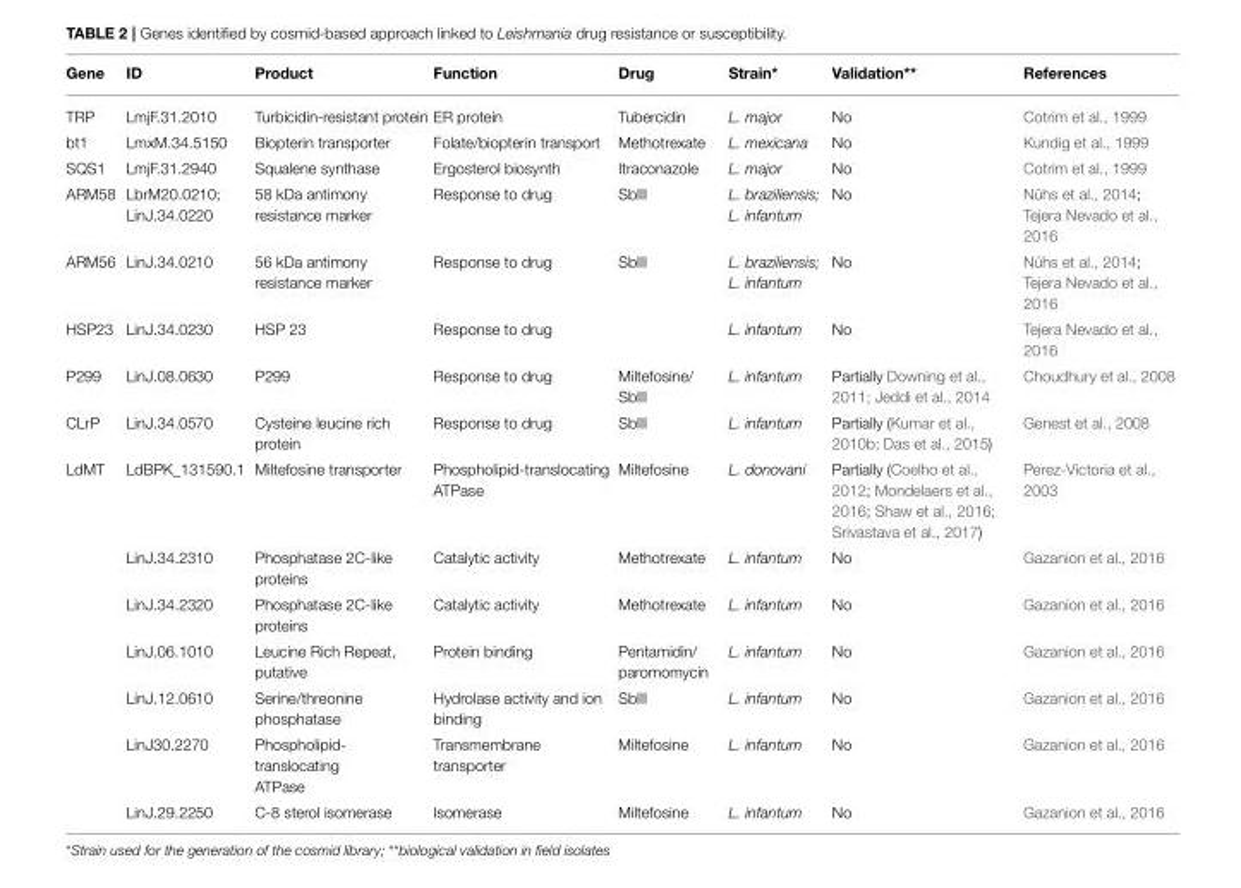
<table><thead><tr><td>Gene</td><td>ID</td><td>Product</td><td>Function</td><td>Drug</td><td>Strain*</td><td>Validation**</td><td>References</td></tr></thead><tbody><tr><td>TRP</td><td>LmjF.31.2010</td><td>Turbicidin-resistant protein</td><td>ER protein</td><td>Tubercidin</td><td>L. major</td><td>No</td><td>Cotrim et al., 1999</td></tr><tr><td>bt1</td><td>LmxM.34.5150</td><td>Biopterin transporter</td><td>Folate/biopterin transport</td><td>Methotrexate</td><td>L. mexicana</td><td>No</td><td>Kundig et al., 1999</td></tr><tr><td>SQS1</td><td>LmjF.31.2940</td><td>Squalene synthase</td><td>Ergosterol biosynth</td><td>Itraconazole</td><td>L. major</td><td>No</td><td>Cotrim et al., 1999</td></tr><tr><td>ARM58</td><td>LbrM20.0210; LinJ.34.0220</td><td>58 kDa antimony resistance marker</td><td>Response to drug</td><td>SbIII</td><td>L. braziliensis; L. infantum</td><td>No</td><td>Nühs et al., 2014; Tejera Nevado et al., 2016</td></tr><tr><td>ARM56</td><td>LinJ.34.0210</td><td>56 kDa antimony resistance marker</td><td>Response to drug</td><td>SbIII</td><td>L. braziliensis; L. infantum</td><td>No</td><td>Nühs et al., 2014; Tejera Nevado et al., 2016</td></tr><tr><td>HSP23</td><td>LinJ.34.0230</td><td>HSP 23</td><td>Response to drug</td><td></td><td>L. infantum</td><td>No</td><td>Tejera Nevado et al., 2016</td></tr><tr><td>P299</td><td>LinJ.08.0630</td><td>P299</td><td>Response to drug</td><td>Miltefosine/ SbIII</td><td>L. infantum</td><td>Partially Downing et al., 2011; Jeddi et al., 2014</td><td>Choudhury et al., 2008</td></tr><tr><td>CLrP</td><td>LinJ.34.0570</td><td>Cysteine leucine rich protein</td><td>Response to drug</td><td>SbIII</td><td>L. infantum</td><td>Partially (Kumar et al., 2010b; Das et al., 2015)</td><td>Genest et al., 2008</td></tr><tr><td rowspan="7">LdMT</td><td>LdBPK_131590.1</td><td>Miltefosine transporter</td><td>Phospholipid-translocating ATPase</td><td>Miltefosine</td><td>L. donovani</td><td>Partially (Coelho et al., 2012; Mondelaers et al., 2016; Shaw et al., 2016; Srivastava et al., 2017)</td><td>Perez-Victoria et al., 2003</td></tr><tr><td>LinJ.34.2310</td><td>Phosphatase 2C-like proteins</td><td>Catalytic activity</td><td>Methotrexate</td><td>L. infantum</td><td>No</td><td>Gazanion et al., 2016</td></tr><tr><td>LinJ.34.2320</td><td>Phosphatase 2C-like proteins</td><td>Catalytic activity</td><td>Methotrexate</td><td>L. infantum</td><td>No</td><td>Gazanion et al., 2016</td></tr><tr><td>LinJ.06.1010</td><td>Leucine Rich Repeat, putative</td><td>Protein binding</td><td>Pentamidin/ paromomycin</td><td>L. infantum</td><td>No</td><td>Gazanion et al., 2016</td></tr><tr><td>LinJ.12.0610</td><td>Serine/threonine phosphatase</td><td>Hydrolase activity and ion binding</td><td>SbIII</td><td>L. infantum</td><td>No</td><td>Gazanion et al., 2016</td></tr><tr><td>LinJ30.2270</td><td>Phospholipid- translocating ATPase</td><td>Transmembrane transporter</td><td>Miltefosine</td><td>L. infantum</td><td>No</td><td>Gazanion et al., 2016</td></tr><tr><td>LinJ.29.2250</td><td>C-8 sterol isomerase</td><td>Isomerase</td><td>Miltefosine</td><td>L. infantum</td><td>No</td><td>Gazanion et al., 2016</td></tr></tbody></table>